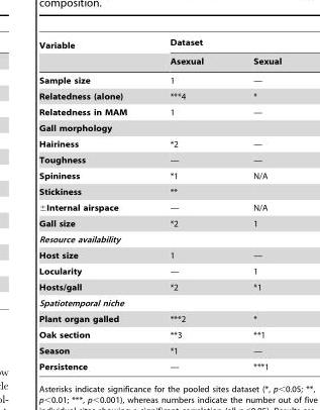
<table><thead><tr><td rowspan="2">Variable</td><td colspan="2">Dataset</td></tr><tr><td>Asexual</td><td>Sexual</td></tr></thead><tbody><tr><td>Sample size</td><td>1</td><td>—</td></tr><tr><td>Relatedness (alone)</td><td>***4</td><td>*</td></tr><tr><td>Relatedness in MAM</td><td>1</td><td>—</td></tr><tr><td colspan="3">Gall morphology</td></tr><tr><td>Hairiness</td><td>*2</td><td>—</td></tr><tr><td>Toughness</td><td>—</td><td>—</td></tr><tr><td>Spininess</td><td>*1</td><td>N/A</td></tr><tr><td>Stickiness</td><td>**</td><td></td></tr><tr><td>±Internal airspace</td><td>—</td><td>N/A</td></tr><tr><td>Gall size</td><td>*2</td><td>1</td></tr><tr><td colspan="3">Resource availability</td></tr><tr><td>Host size</td><td>1</td><td>—</td></tr><tr><td>Locularity</td><td>—</td><td>1</td></tr><tr><td>Hosts/gall</td><td>*2</td><td>*1</td></tr><tr><td colspan="3">Spatiotemporal niche</td></tr><tr><td>Plant organ galled</td><td>***2</td><td>*</td></tr><tr><td>Oak section</td><td>**3</td><td>**1</td></tr><tr><td>Season</td><td>*1</td><td>—</td></tr><tr><td>Persistence</td><td>—</td><td>***1</td></tr></tbody></table>